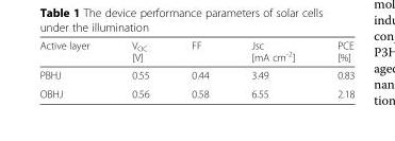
<table><thead><tr><td>Active layer</td><td>V<sub>OC</sub> [V]</td><td>FF</td><td>Jsc [mA cm<sup>-2</sup>]</td><td>PCE [%]</td></tr></thead><tbody><tr><td>PBHJ</td><td>0.55</td><td>0.44</td><td>3.49</td><td>0.83</td></tr><tr><td>OBHJ</td><td>0.56</td><td>0.58</td><td>6.55</td><td>2.18</td></tr></tbody></table>